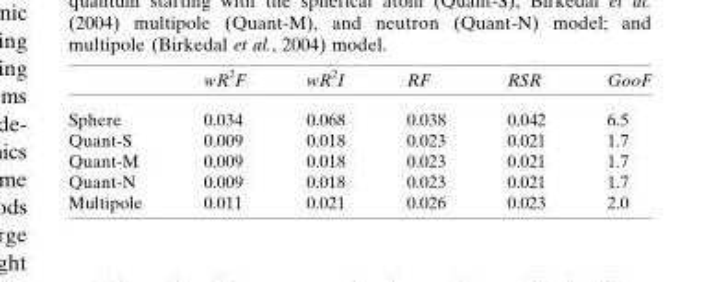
<table><thead><tr><td></td><td>wR<sup>2</sup>F</td><td>wR<sup>2</sup>I</td><td>RF</td><td>RSR</td><td>GooF</td></tr></thead><tbody><tr><td>Sphere</td><td>0.034</td><td>0.068</td><td>0.038</td><td>0.042</td><td>6.5</td></tr><tr><td>Quant-S</td><td>0.009</td><td>0.018</td><td>0.023</td><td>0.021</td><td>1.7</td></tr><tr><td>Quant-M</td><td>0.009</td><td>0.018</td><td>0.023</td><td>0.021</td><td>1.7</td></tr><tr><td>Quant-N</td><td>0.009</td><td>0.018</td><td>0.023</td><td>0.021</td><td>1.7</td></tr><tr><td>Multipole</td><td>0.011</td><td>0.021</td><td>0.026</td><td>0.023</td><td>2.0</td></tr></tbody></table>